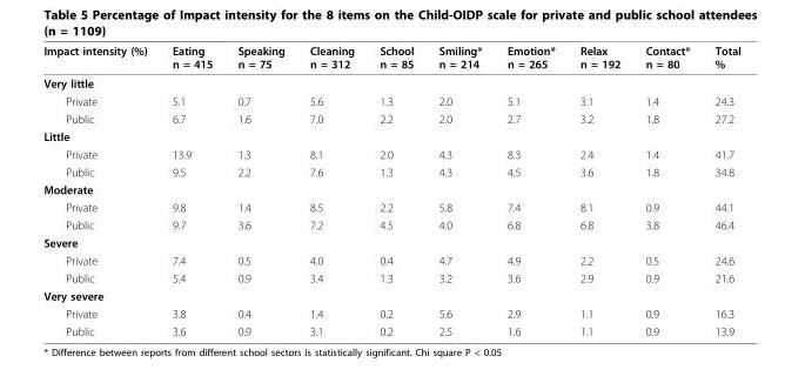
<table><thead><tr><td>Impact intensity (%)</td><td>Eating n = 415</td><td>Speaking n = 75</td><td>Cleaning n = 312</td><td>School n = 85</td><td>Smiling* n = 214</td><td>Emotion* n = 265</td><td>Relax n = 192</td><td>Contact* n = 80</td><td>Total %</td></tr></thead><tbody><tr><td colspan="10">Very little</td></tr><tr><td>Private</td><td>5.1</td><td>0.7</td><td>5.6</td><td>1.3</td><td>2.0</td><td>5.1</td><td>3.1</td><td>1.4</td><td>24.3</td></tr><tr><td>Public</td><td>6.7</td><td>1.6</td><td>7.0</td><td>2.2</td><td>2.0</td><td>2.7</td><td>3.2</td><td>1.8</td><td>27.2</td></tr><tr><td colspan="10">Little</td></tr><tr><td>Private</td><td>13.9</td><td>1.3</td><td>8.1</td><td>2.0</td><td>4.3</td><td>8.3</td><td>2.4</td><td>1.4</td><td>41.7</td></tr><tr><td>Public</td><td>9.5</td><td>2.2</td><td>7.6</td><td>1.3</td><td>4.3</td><td>4.5</td><td>3.6</td><td>1.8</td><td>34.8</td></tr><tr><td colspan="10">Moderate</td></tr><tr><td>Private</td><td>9.8</td><td>1.4</td><td>8.5</td><td>2.2</td><td>5.8</td><td>7.4</td><td>8.1</td><td>0.9</td><td>44.1</td></tr><tr><td>Public</td><td>9.7</td><td>3.6</td><td>7.2</td><td>4.5</td><td>4.0</td><td>6.8</td><td>6.8</td><td>3.8</td><td>46.4</td></tr><tr><td colspan="10">Severe</td></tr><tr><td>Private</td><td>7.4</td><td>0.5</td><td>4.0</td><td>0.4</td><td>4.7</td><td>4.9</td><td>2.2</td><td>0.5</td><td>24.6</td></tr><tr><td>Public</td><td>5.4</td><td>0.9</td><td>3.4</td><td>1.3</td><td>3.2</td><td>3.6</td><td>2.9</td><td>0.9</td><td>21.6</td></tr><tr><td colspan="10">Very severe</td></tr><tr><td>Private</td><td>3.8</td><td>0.4</td><td>1.4</td><td>0.2</td><td>5.6</td><td>2.9</td><td>1.1</td><td>0.9</td><td>16.3</td></tr><tr><td>Public</td><td>3.6</td><td>0.9</td><td>3.1</td><td>0.2</td><td>2.5</td><td>1.6</td><td>1.1</td><td>0.9</td><td>13.9</td></tr></tbody></table>